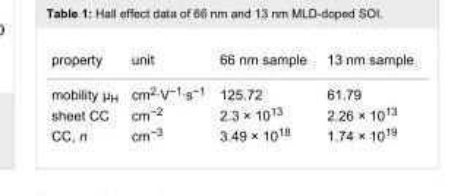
<table><tbody><tr><td>property</td><td>unit</td><td>66 nm sample</td><td>13 nm sample</td></tr><tr><td>mobility µ<sub>H</sub></td><td>cm<sup>2</sup>·V<sup>−1</sup>·s<sup>−1</sup></td><td>125.72</td><td>61.79</td></tr><tr><td>sheet CC</td><td>cm<sup>−2</sup></td><td>2.3 × 10<sup>13</sup></td><td>2.26 × 10<sup>13</sup></td></tr><tr><td>CC, n</td><td>cm<sup>−3</sup></td><td>3.49 × 10<sup>18</sup></td><td>1.74 × 10<sup>19</sup></td></tr></tbody></table>